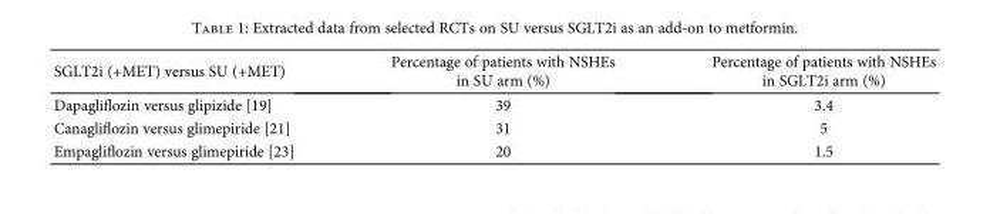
<table><thead><tr><td>SGLT2i (+MET) versus SU (+MET)</td><td>Percentage of patients with NSHEs in SU arm (%)</td><td>Percentage of patients with NSHEs in SGLT2i arm (%)</td></tr></thead><tbody><tr><td>Dapagliflozin versus glipizide [19]</td><td>39</td><td>3.4</td></tr><tr><td>Canagliflozin versus glimepiride [21]</td><td>31</td><td>5</td></tr><tr><td>Empagliflozin versus glimepiride [23]</td><td>20</td><td>1.5</td></tr></tbody></table>